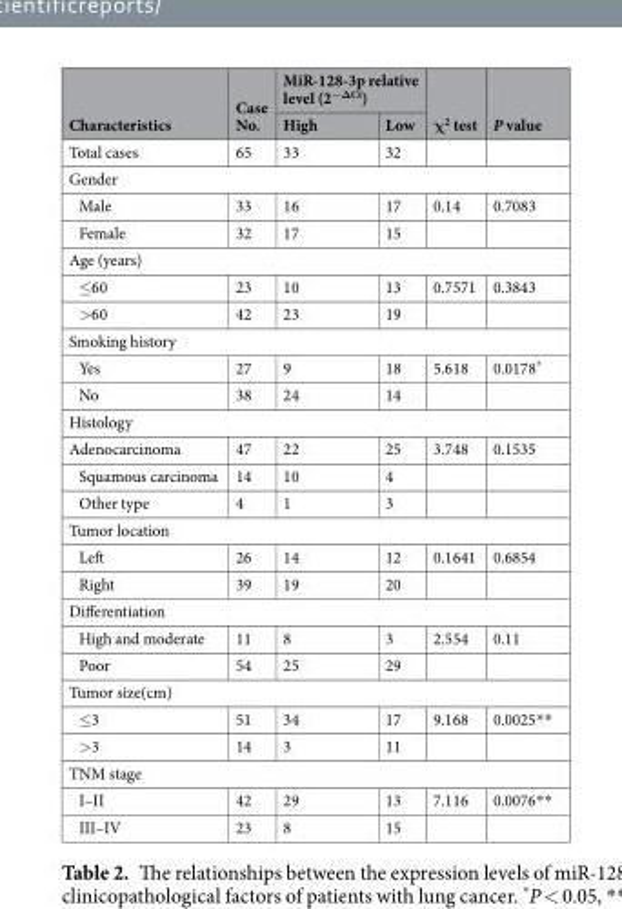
<table><thead><tr><td rowspan="2">Characteristics</td><td rowspan="2">Case No.</td><td colspan="2">MiR-128-3p relative level (2<sup>−ΔCt</sup>)</td><td rowspan="2">χ<sup>2</sup> test</td><td rowspan="2">P value</td></tr><tr><td>High</td><td>Low</td></tr></thead><tbody><tr><td>Total cases</td><td>65</td><td>33</td><td>32</td><td></td><td></td></tr><tr><td colspan="6">Gender</td></tr><tr><td>Male</td><td>33</td><td>16</td><td>17</td><td>0.14</td><td>0.7083</td></tr><tr><td>Female</td><td>32</td><td>17</td><td>15</td><td></td><td></td></tr><tr><td colspan="6">Age (years)</td></tr><tr><td>≤60</td><td>23</td><td>10</td><td>13</td><td>0.7571</td><td>0.3843</td></tr><tr><td>&gt;60</td><td>42</td><td>23</td><td>19</td><td></td><td></td></tr><tr><td colspan="6">Smoking history</td></tr><tr><td>Yes</td><td>27</td><td>9</td><td>18</td><td>5.618</td><td>0.0178*</td></tr><tr><td>No</td><td>38</td><td>24</td><td>14</td><td></td><td></td></tr><tr><td colspan="6">Histology</td></tr><tr><td>Adenocarcinoma</td><td>47</td><td>22</td><td>25</td><td>3.748</td><td>0.1535</td></tr><tr><td>Squamous carcinoma</td><td>14</td><td>10</td><td>4</td><td></td><td></td></tr><tr><td>Other type</td><td>4</td><td>1</td><td>3</td><td></td><td></td></tr><tr><td colspan="6">Tumor location</td></tr><tr><td>Left</td><td>26</td><td>14</td><td>12</td><td>0.1641</td><td>0.6854</td></tr><tr><td>Right</td><td>39</td><td>19</td><td>20</td><td></td><td></td></tr><tr><td colspan="6">Differentiation</td></tr><tr><td>High and moderate</td><td>11</td><td>8</td><td>3</td><td>2.554</td><td>0.11</td></tr><tr><td>Poor</td><td>54</td><td>25</td><td>29</td><td></td><td></td></tr><tr><td colspan="6">Tumor size(cm)</td></tr><tr><td>≤3</td><td>51</td><td>34</td><td>17</td><td>9.168</td><td>0.0025**</td></tr><tr><td>&gt;3</td><td>14</td><td>3</td><td>11</td><td></td><td></td></tr><tr><td colspan="6">TNM stage</td></tr><tr><td>I–II</td><td>42</td><td>29</td><td>13</td><td>7.116</td><td>0.0076**</td></tr><tr><td>III–IV</td><td>23</td><td>8</td><td>15</td><td></td><td></td></tr></tbody></table>